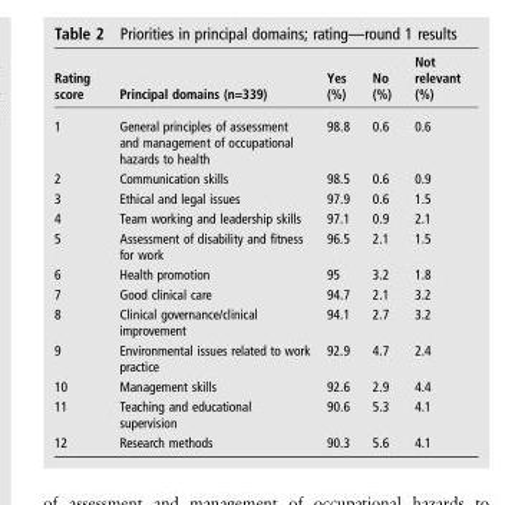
<table><thead><tr><td>Rating score</td><td>Principal domains (n=339)</td><td>Yes (%)</td><td>No (%)</td><td>Not relevant (%)</td></tr></thead><tbody><tr><td>1</td><td>General principles of assessment and management of occupational hazards to health</td><td>98.8</td><td>0.6</td><td>0.6</td></tr><tr><td>2</td><td>Communication skills</td><td>98.5</td><td>0.6</td><td>0.9</td></tr><tr><td>3</td><td>Ethical and legal issues</td><td>97.9</td><td>0.6</td><td>1.5</td></tr><tr><td>4</td><td>Team working and leadership skills</td><td>97.1</td><td>0.9</td><td>2.1</td></tr><tr><td>5</td><td>Assessment of disability and fitness for work</td><td>96.5</td><td>2.1</td><td>1.5</td></tr><tr><td>6</td><td>Health promotion</td><td>95</td><td>3.2</td><td>1.8</td></tr><tr><td>7</td><td>Good clinical care</td><td>94.7</td><td>2.1</td><td>3.2</td></tr><tr><td>8</td><td>Clinical governance/clinical improvement</td><td>94.1</td><td>2.7</td><td>3.2</td></tr><tr><td>9</td><td>Environmental issues related to work practice</td><td>92.9</td><td>4.7</td><td>2.4</td></tr><tr><td>10</td><td>Management skills</td><td>92.6</td><td>2.9</td><td>4.4</td></tr><tr><td>11</td><td>Teaching and educational supervision</td><td>90.6</td><td>5.3</td><td>4.1</td></tr><tr><td>12</td><td>Research methods</td><td>90.3</td><td>5.6</td><td>4.1</td></tr></tbody></table>